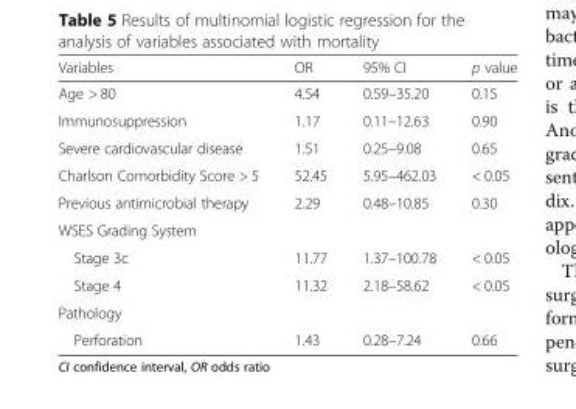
<table><thead><tr><td>Variables</td><td>OR</td><td>95% CI</td><td>p value</td></tr></thead><tbody><tr><td>Age &gt; 80</td><td>4.54</td><td>0.59–35.20</td><td>0.15</td></tr><tr><td>Immunosuppression</td><td>1.17</td><td>0.11–12.63</td><td>0.90</td></tr><tr><td>Severe cardiovascular disease</td><td>1.51</td><td>0.25–9.08</td><td>0.65</td></tr><tr><td>Charlson Comorbidity Score &gt; 5</td><td>52.45</td><td>5.95–462.03</td><td>&lt; 0.05</td></tr><tr><td>Previous antimicrobial therapy</td><td>2.29</td><td>0.48–10.85</td><td>0.30</td></tr><tr><td colspan="4">WSES Grading System</td></tr><tr><td>Stage 3c</td><td>11.77</td><td>1.37–100.78</td><td>&lt; 0.05</td></tr><tr><td>Stage 4</td><td>11.32</td><td>2.18–58.62</td><td>&lt; 0.05</td></tr><tr><td colspan="4">Pathology</td></tr><tr><td>Perforation</td><td>1.43</td><td>0.28–7.24</td><td>0.66</td></tr></tbody></table>